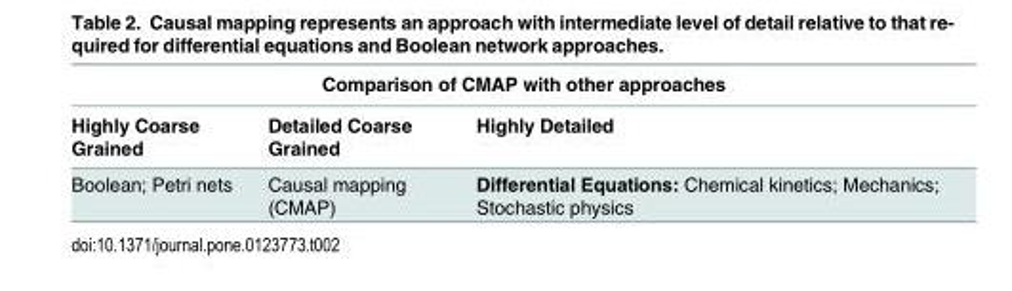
<table><thead><tr><td colspan="3">Comparison of CMAP with other approaches</td></tr><tr><td>Highly Coarse Grained</td><td>Detailed Coarse Grained</td><td>Highly Detailed</td></tr></thead><tbody><tr><td>Boolean; Petri nets</td><td>Causal mapping (CMAP)</td><td>Differential Equations: Chemical kinetics; Mechanics; Stochastic physics</td></tr></tbody></table>